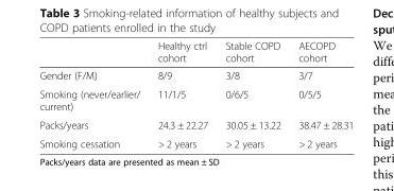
<table><thead><tr><td></td><td>Healthy ctrl cohort</td><td>Stable COPD cohort</td><td>AECOPD cohort</td></tr></thead><tbody><tr><td>Gender (F/M)</td><td>8/9</td><td>3/8</td><td>3/7</td></tr><tr><td>Smoking (never/earlier/ current)</td><td>11/1/5</td><td>0/6/5</td><td>0/5/5</td></tr><tr><td>Packs/years</td><td>24.3 ± 22.27</td><td>30.05 ± 13.22</td><td>38.47 ± 28.31</td></tr><tr><td>Smoking cessation</td><td>&gt; 2 years</td><td>&gt; 2 years</td><td>&gt; 2 years</td></tr></tbody></table>